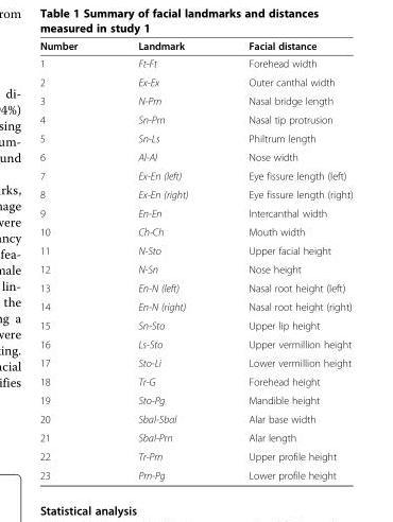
<table><thead><tr><td>Number</td><td>Landmark</td><td>Facial distance</td></tr></thead><tbody><tr><td>1</td><td>Ft-Ft</td><td>Forehead width</td></tr><tr><td>2</td><td>Ex-Ex</td><td>Outer canthal width</td></tr><tr><td>3</td><td>N-Prn</td><td>Nasal bridge length</td></tr><tr><td>4</td><td>Sn-Prn</td><td>Nasal tip protrusion</td></tr><tr><td>5</td><td>Sn-Ls</td><td>Philtrum length</td></tr><tr><td>6</td><td>Al-Al</td><td>Nose width</td></tr><tr><td>7</td><td>Ex-En (left)</td><td>Eye fissure length (left)</td></tr><tr><td>8</td><td>Ex-En (right)</td><td>Eye fissure length (right)</td></tr><tr><td>9</td><td>En-En</td><td>Intercanthal width</td></tr><tr><td>10</td><td>Ch-Ch</td><td>Mouth width</td></tr><tr><td>11</td><td>N-Sto</td><td>Upper facial height</td></tr><tr><td>12</td><td>N-Sn</td><td>Nose height</td></tr><tr><td>13</td><td>En-N (left)</td><td>Nasal root height (left)</td></tr><tr><td>14</td><td>En-N (right)</td><td>Nasal root height (right)</td></tr><tr><td>15</td><td>Sn-Sto</td><td>Upper lip height</td></tr><tr><td>16</td><td>Ls-Sto</td><td>Upper vermillion height</td></tr><tr><td>17</td><td>Sto-Li</td><td>Lower vermillion height</td></tr><tr><td>18</td><td>Tr-G</td><td>Forehead height</td></tr><tr><td>19</td><td>Sto-Pg</td><td>Mandible height</td></tr><tr><td>20</td><td>Sbal-Sbal</td><td>Alar base width</td></tr><tr><td>21</td><td>Sbal-Prn</td><td>Alar length</td></tr><tr><td>22</td><td>Tr-Prn</td><td>Upper profile height</td></tr><tr><td>23</td><td>Prn-Pg</td><td>Lower profile height</td></tr></tbody></table>